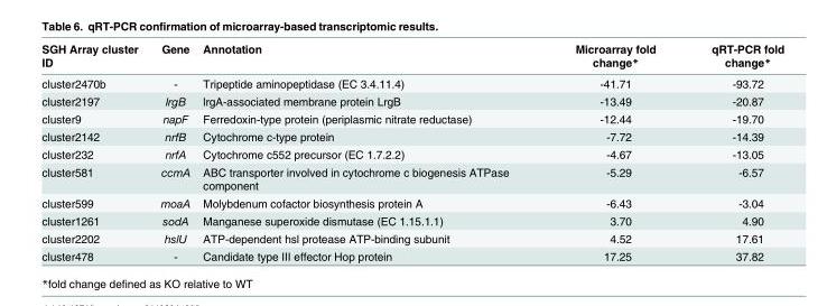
<table><thead><tr><td>SGH Array cluster ID</td><td>Gene</td><td>Annotation</td><td>Microarray fold change*</td><td>qRT-PCR fold change*</td></tr></thead><tbody><tr><td>cluster2470b</td><td>-</td><td>Tripeptide aminopeptidase (EC 3.4.11.4)</td><td>-41.71</td><td>-93.72</td></tr><tr><td>cluster2197</td><td>lrgB</td><td>lrgA-associated membrane protein LrgB</td><td>-13.49</td><td>-20.87</td></tr><tr><td>cluster9</td><td>napF</td><td>Ferredoxin-type protein (periplasmic nitrate reductase)</td><td>-12.44</td><td>-19.70</td></tr><tr><td>cluster2142</td><td>nrfB</td><td>Cytochrome c-type protein</td><td>-7.72</td><td>-14.39</td></tr><tr><td>cluster232</td><td>nrfA</td><td>Cytochrome c552 precursor (EC 1.7.2.2)</td><td>-4.67</td><td>-13.05</td></tr><tr><td>cluster581</td><td>ccmA</td><td>ABC transporter involved in cytochrome c biogenesis ATPase component</td><td>-5.29</td><td>-6.57</td></tr><tr><td>cluster599</td><td>moaA</td><td>Molybdenum cofactor biosynthesis protein A</td><td>-6.43</td><td>-3.04</td></tr><tr><td>cluster1261</td><td>sodA</td><td>Manganese superoxide dismutase (EC 1.15.1.1)</td><td>3.70</td><td>4.90</td></tr><tr><td>cluster2202</td><td>hslU</td><td>ATP-dependent hsl protease ATP-binding subunit</td><td>4.52</td><td>17.61</td></tr><tr><td>cluster478</td><td>-</td><td>Candidate type III effector Hop protein</td><td>17.25</td><td>37.82</td></tr></tbody></table>